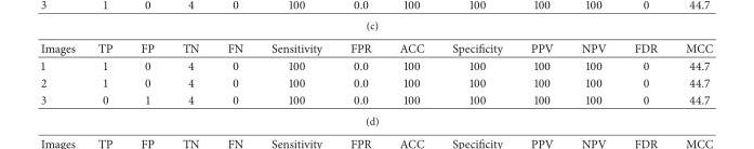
<table><thead><tr><td>Images</td><td>TP</td><td>FP</td><td>TN</td><td>FN</td><td>Sensitivity</td><td>FPR</td><td>ACC</td><td>Specificity</td><td>PPV</td><td>NPV</td><td>FDR</td><td>MCC</td></tr></thead><tbody><tr><td>1</td><td>1</td><td>0</td><td>4</td><td>0</td><td>100</td><td>0.0</td><td>100</td><td>100</td><td>100</td><td>100</td><td>0</td><td>44.7</td></tr><tr><td>2</td><td>1</td><td>0</td><td>4</td><td>0</td><td>100</td><td>0.0</td><td>100</td><td>100</td><td>100</td><td>100</td><td>0</td><td>44.7</td></tr><tr><td>3</td><td>0</td><td>1</td><td>4</td><td>0</td><td>100</td><td>0.0</td><td>100</td><td>100</td><td>100</td><td>100</td><td>0</td><td>44.7</td></tr></tbody></table>